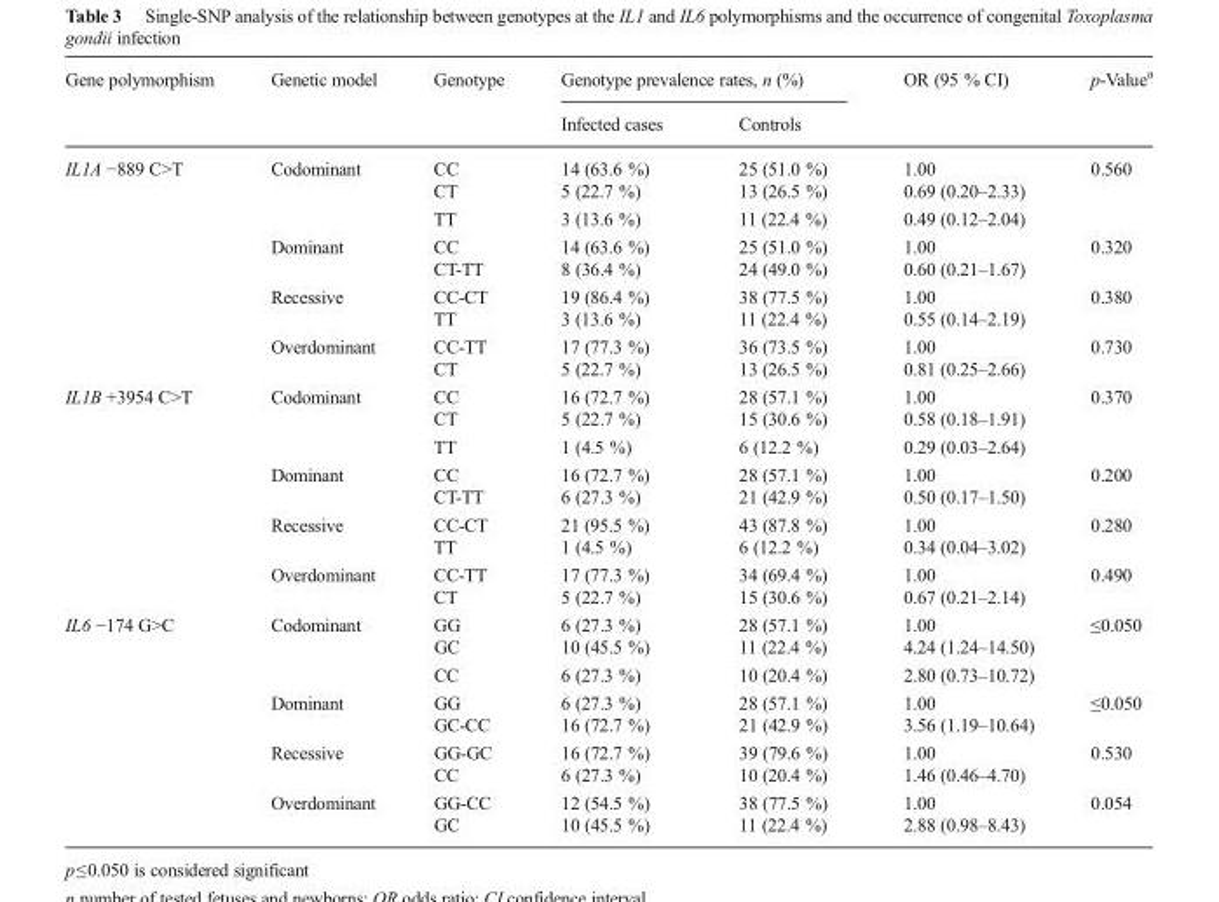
<table><thead><tr><td rowspan="2">Gene polymorphism</td><td rowspan="2">Genetic model</td><td rowspan="2">Genotype</td><td colspan="2">Genotype prevalence rates, n (%)</td><td rowspan="2">OR (95 % CI)</td><td rowspan="2">p-Value<sup>a</sup></td></tr><tr><td>Infected cases</td><td>Controls</td></tr></thead><tbody><tr><td rowspan="9">IL1A −889 C&gt;T</td><td rowspan="3">Codominant</td><td>CC</td><td>14 (63.6 %)</td><td>25 (51.0 %)</td><td>1.00</td><td rowspan="3">0.560</td></tr><tr><td>CT</td><td>5 (22.7 %)</td><td>13 (26.5 %)</td><td>0.69 (0.20–2.33)</td></tr><tr><td>TT</td><td>3 (13.6 %)</td><td>11 (22.4 %)</td><td>0.49 (0.12–2.04)</td></tr><tr><td rowspan="2">Dominant</td><td>CC</td><td>14 (63.6 %)</td><td>25 (51.0 %)</td><td>1.00</td><td rowspan="2">0.320</td></tr><tr><td>CT-TT</td><td>8 (36.4 %)</td><td>24 (49.0 %)</td><td>0.60 (0.21–1.67)</td></tr><tr><td rowspan="2">Recessive</td><td>CC-CT</td><td>19 (86.4 %)</td><td>38 (77.5 %)</td><td>1.00</td><td rowspan="2">0.380</td></tr><tr><td>TT</td><td>3 (13.6 %)</td><td>11 (22.4 %)</td><td>0.55 (0.14–2.19)</td></tr><tr><td rowspan="2">Overdominant</td><td>CC-TT</td><td>17 (77.3 %)</td><td>36 (73.5 %)</td><td>1.00</td><td rowspan="2">0.730</td></tr><tr><td>CT</td><td>5 (22.7 %)</td><td>13 (26.5 %)</td><td>0.81 (0.25–2.66)</td></tr><tr><td rowspan="9">IL1B +3954 C&gt;T</td><td rowspan="3">Codominant</td><td>CC</td><td>16 (72.7 %)</td><td>28 (57.1 %)</td><td>1.00</td><td rowspan="3">0.370</td></tr><tr><td>CT</td><td>5 (22.7 %)</td><td>15 (30.6 %)</td><td>0.58 (0.18–1.91)</td></tr><tr><td>TT</td><td>1 (4.5 %)</td><td>6 (12.2 %)</td><td>0.29 (0.03–2.64)</td></tr><tr><td rowspan="2">Dominant</td><td>CC</td><td>16 (72.7 %)</td><td>28 (57.1 %)</td><td>1.00</td><td rowspan="2">0.200</td></tr><tr><td>CT-TT</td><td>6 (27.3 %)</td><td>21 (42.9 %)</td><td>0.50 (0.17–1.50)</td></tr><tr><td rowspan="2">Recessive</td><td>CC-CT</td><td>21 (95.5 %)</td><td>43 (87.8 %)</td><td>1.00</td><td rowspan="2">0.280</td></tr><tr><td>TT</td><td>1 (4.5 %)</td><td>6 (12.2 %)</td><td>0.34 (0.04–3.02)</td></tr><tr><td rowspan="2">Overdominant</td><td>CC-TT</td><td>17 (77.3 %)</td><td>34 (69.4 %)</td><td>1.00</td><td rowspan="2">0.490</td></tr><tr><td>CT</td><td>5 (22.7 %)</td><td>15 (30.6 %)</td><td>0.67 (0.21–2.14)</td></tr><tr><td rowspan="9">IL6 −174 G&gt;C</td><td rowspan="3">Codominant</td><td>GG</td><td>6 (27.3 %)</td><td>28 (57.1 %)</td><td>1.00</td><td rowspan="3">≤0.050</td></tr><tr><td>GC</td><td>10 (45.5 %)</td><td>11 (22.4 %)</td><td>4.24 (1.24–14.50)</td></tr><tr><td>CC</td><td>6 (27.3 %)</td><td>10 (20.4 %)</td><td>2.80 (0.73–10.72)</td></tr><tr><td rowspan="2">Dominant</td><td>GG</td><td>6 (27.3 %)</td><td>28 (57.1 %)</td><td>1.00</td><td rowspan="2">≤0.050</td></tr><tr><td>GC-CC</td><td>16 (72.7 %)</td><td>21 (42.9 %)</td><td>3.56 (1.19–10.64)</td></tr><tr><td rowspan="2">Recessive</td><td>GG-GC</td><td>16 (72.7 %)</td><td>39 (79.6 %)</td><td>1.00</td><td rowspan="2">0.530</td></tr><tr><td>CC</td><td>6 (27.3 %)</td><td>10 (20.4 %)</td><td>1.46 (0.46–4.70)</td></tr><tr><td rowspan="2">Overdominant</td><td>GG-CC</td><td>12 (54.5 %)</td><td>38 (77.5 %)</td><td>1.00</td><td rowspan="2">0.054</td></tr><tr><td>GC</td><td>10 (45.5 %)</td><td>11 (22.4 %)</td><td>2.88 (0.98–8.43)</td></tr></tbody></table>